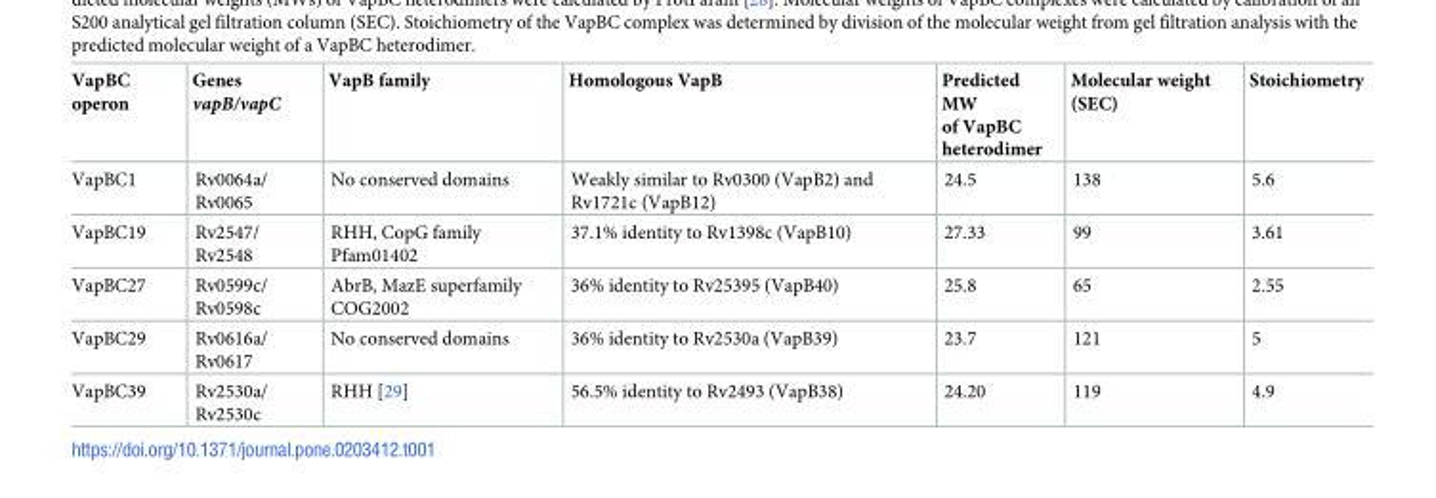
<table><thead><tr><td>VapBC operon</td><td>Genes vapB/vapC</td><td>VapB family</td><td>Homologous VapB</td><td>Predicted MW of VapBC heterodimer</td><td>Molecular weight (SEC)</td><td>Stoichiometry</td></tr></thead><tbody><tr><td>VapBC1</td><td>Rv0064a/ Rv0065</td><td>No conserved domains</td><td>Weakly similar to Rv0300 (VapB2) and Rv1721c (VapB12)</td><td>24.5</td><td>138</td><td>5.6</td></tr><tr><td>VapBC19</td><td>Rv2547/ Rv2548</td><td>RHH, CopG family Pfam01402</td><td>37.1% identity to Rv1398c (VapB10)</td><td>27.33</td><td>99</td><td>3.61</td></tr><tr><td>VapBC27</td><td>Rv0599c/ Rv0598c</td><td>AbrB, MazE superfamily COG2002</td><td>36% identity to Rv25395 (VapB40)</td><td>25.8</td><td>65</td><td>2.55</td></tr><tr><td>VapBC29</td><td>Rv0616a/ Rv0617</td><td>No conserved domains</td><td>36% identity to Rv2530a (VapB39)</td><td>23.7</td><td>121</td><td>5</td></tr><tr><td>VapBC39</td><td>Rv2530a/ Rv2530c</td><td>RHH [29]</td><td>56.5% identity to Rv2493 (VapB38)</td><td>24.20</td><td>119</td><td>4.9</td></tr></tbody></table>